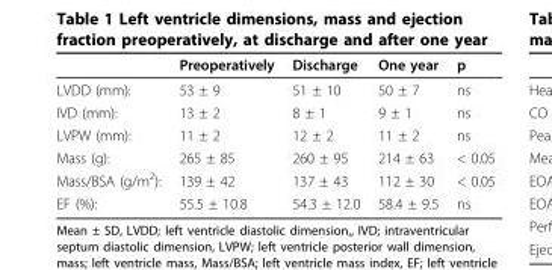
<table><thead><tr><td></td><td>Preoperatively</td><td>Discharge</td><td>One year</td><td>p</td></tr></thead><tbody><tr><td>LVDD (mm):</td><td>53 ± 9</td><td>51 ± 10</td><td>50 ± 7</td><td>ns</td></tr><tr><td>IVD (mm):</td><td>13 ± 2</td><td>8 ± 1</td><td>9 ± 1</td><td>ns</td></tr><tr><td>LVPW (mm):</td><td>11 ± 2</td><td>12 ± 2</td><td>11 ± 2</td><td>ns</td></tr><tr><td>Mass (g):</td><td>265 ± 85</td><td>260 ± 95</td><td>214 ± 63</td><td>&lt; 0.05</td></tr><tr><td>Mass/BSA (g/m<sup>2</sup>):</td><td>139 ± 42</td><td>137 ± 43</td><td>112 ± 30</td><td>&lt; 0.05</td></tr><tr><td>EF (%):</td><td>55.5 ± 10.8</td><td>54.3 ± 12.0</td><td>58.4 ± 9.5</td><td>ns</td></tr></tbody></table>